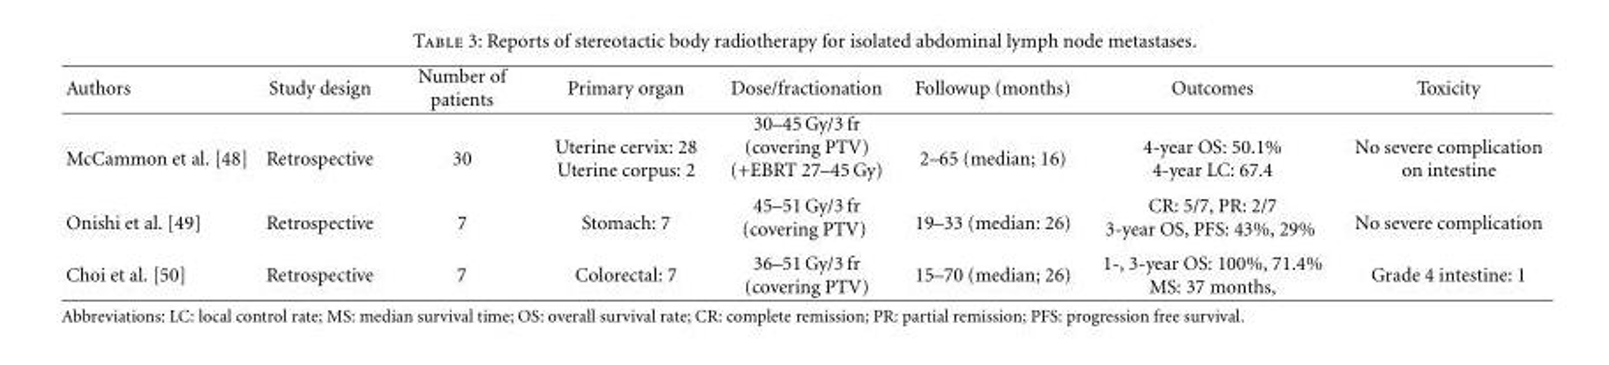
<table><thead><tr><td>Authors</td><td>Study design</td><td>Number of patients</td><td>Primary organ</td><td>Dose/fractionation</td><td>Followup (months)</td><td>Outcomes</td><td>Toxicity</td></tr></thead><tbody><tr><td>McCammon et al. [48]</td><td>Retrospective</td><td>30</td><td>Uterine cervix: 28 Uterine corpus: 2</td><td>30–45 Gy/3 fr (covering PTV) (+EBRT 27–45 Gy)</td><td>2–65 (median; 16)</td><td>4-year OS: 50.1% 4-year LC: 67.4</td><td>No severe complication on intestine</td></tr><tr><td>Onishi et al. [49]</td><td>Retrospective</td><td>7</td><td>Stomach: 7</td><td>45–51 Gy/3 fr (covering PTV)</td><td>19–33 (median: 26)</td><td>CR: 5/7, PR: 2/7 3-year OS, PFS: 43%, 29%</td><td>No severe complication</td></tr><tr><td>Choi et al. [50]</td><td>Retrospective</td><td>7</td><td>Colorectal: 7</td><td>36–51 Gy/3 fr (covering PTV)</td><td>15–70 (median; 26)</td><td>1-, 3-year OS: 100%, 71.4% MS: 37 months,</td><td>Grade 4 intestine: 1</td></tr></tbody></table>